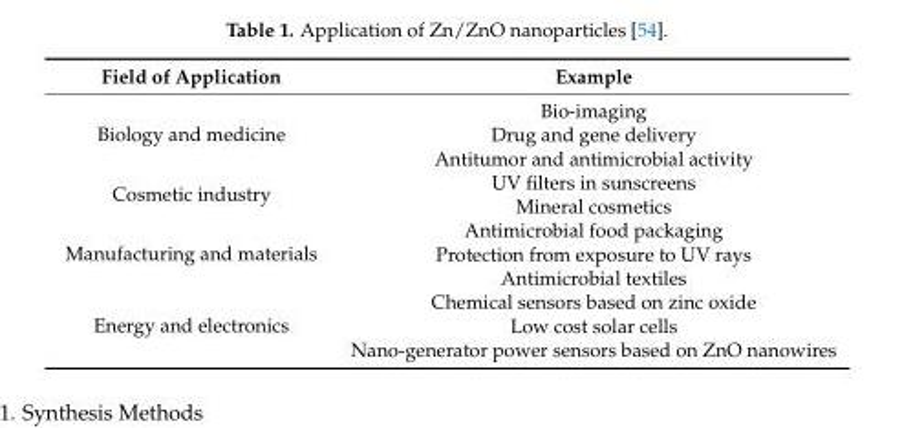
<table><tbody><tr><td>Field of Application</td><td>Example</td></tr><tr><td rowspan="3">Biology and medicine</td><td>Bio-imaging</td></tr><tr><td>Drug and gene delivery</td></tr><tr><td>Antitumor and antimicrobial activity</td></tr><tr><td rowspan="2">Cosmetic industry</td><td>UV filters in sunscreens</td></tr><tr><td>Mineral cosmetics</td></tr><tr><td rowspan="3">Manufacturing and materials</td><td>Antimicrobial food packaging</td></tr><tr><td>Protection from exposure to UV rays</td></tr><tr><td>Antimicrobial textiles</td></tr><tr><td rowspan="3">Energy and electronics</td><td>Chemical sensors based on zinc oxide</td></tr><tr><td>Low cost solar cells</td></tr><tr><td>Nano-generator power sensors based on ZnO nanowires</td></tr></tbody></table>